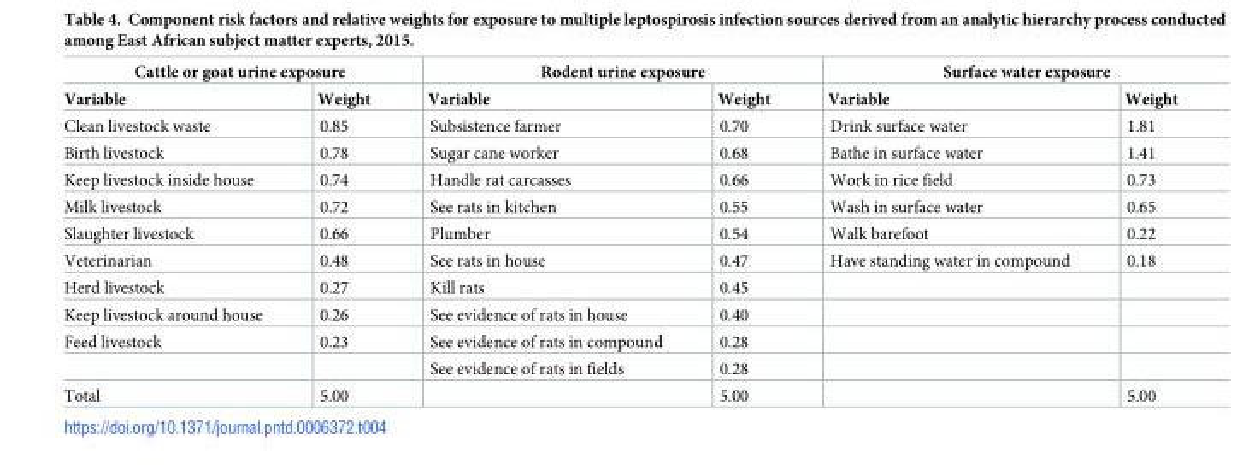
<table><thead><tr><td colspan="2">Cattle or goat urine exposure</td><td colspan="2">Rodent urine exposure</td><td colspan="2">Surface water exposure</td></tr><tr><td>Variable</td><td>Weight</td><td>Variable</td><td>Weight</td><td>Variable</td><td>Weight</td></tr></thead><tbody><tr><td>Clean livestock waste</td><td>0.85</td><td>Subsistence farmer</td><td>0.70</td><td>Drink surface water</td><td>1.81</td></tr><tr><td>Birth livestock</td><td>0.78</td><td>Sugar cane worker</td><td>0.68</td><td>Bathe in surface water</td><td>1.41</td></tr><tr><td>Keep livestock inside house</td><td>0.74</td><td>Handle rat carcasses</td><td>0.66</td><td>Work in rice field</td><td>0.73</td></tr><tr><td>Milk livestock</td><td>0.72</td><td>See rats in kitchen</td><td>0.55</td><td>Wash in surface water</td><td>0.65</td></tr><tr><td>Slaughter livestock</td><td>0.66</td><td>Plumber</td><td>0.54</td><td>Walk barefoot</td><td>0.22</td></tr><tr><td>Veterinarian</td><td>0.48</td><td>See rats in house</td><td>0.47</td><td>Have standing water in compound</td><td>0.18</td></tr><tr><td>Herd livestock</td><td>0.27</td><td>Kill rats</td><td>0.45</td><td></td><td></td></tr><tr><td>Keep livestock around house</td><td>0.26</td><td>See evidence of rats in house</td><td>0.40</td><td></td><td></td></tr><tr><td rowspan="2">Feed livestock</td><td>0.23</td><td>See evidence of rats in compound</td><td>0.28</td><td></td><td></td></tr><tr><td></td><td>See evidence of rats in fields</td><td>0.28</td><td></td><td></td></tr><tr><td>Total</td><td>5.00</td><td></td><td>5.00</td><td></td><td>5.00</td></tr></tbody></table>